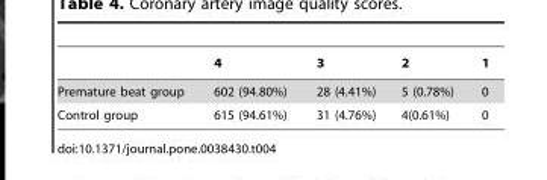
<table><thead><tr><td></td><td>4</td><td>3</td><td>2</td><td>1</td></tr></thead><tbody><tr><td>Premature beat group</td><td>602 (94.80%)</td><td>28 (4.41%)</td><td>5 (0.78%)</td><td>0</td></tr><tr><td>Control group</td><td>615 (94.61%)</td><td>31 (4.76%)</td><td>4(0.61%)</td><td>0</td></tr></tbody></table>